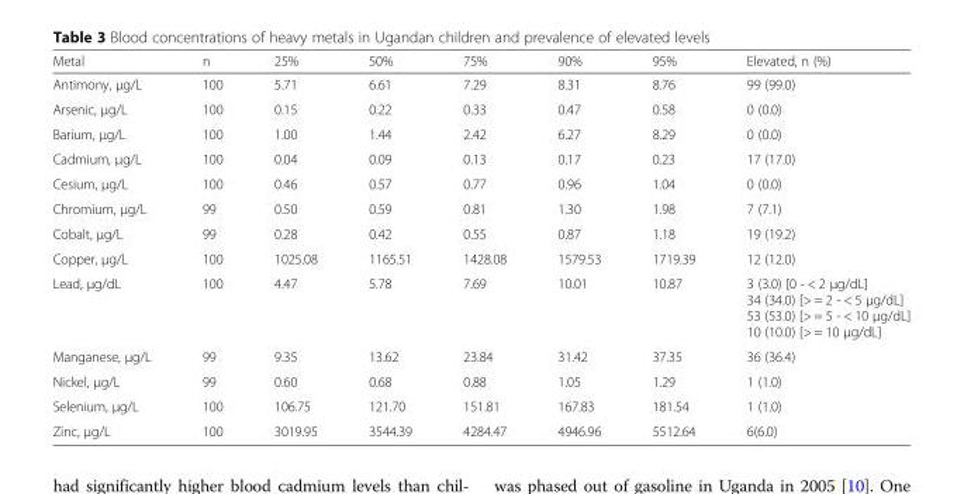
<table><thead><tr><td>Metal</td><td>n</td><td>25%</td><td>50%</td><td>75%</td><td>90%</td><td>95%</td><td>Elevated, n (%)</td></tr></thead><tbody><tr><td>Antimony, μg/L</td><td>100</td><td>5.71</td><td>6.61</td><td>7.29</td><td>8.31</td><td>8.76</td><td>99 (99.0)</td></tr><tr><td>Arsenic, μg/L</td><td>100</td><td>0.15</td><td>0.22</td><td>0.33</td><td>0.47</td><td>0.58</td><td>0 (0.0)</td></tr><tr><td>Barium, μg/L</td><td>100</td><td>1.00</td><td>1.44</td><td>2.42</td><td>6.27</td><td>8.29</td><td>0 (0.0)</td></tr><tr><td>Cadmium, μg/L</td><td>100</td><td>0.04</td><td>0.09</td><td>0.13</td><td>0.17</td><td>0.23</td><td>17 (17.0)</td></tr><tr><td>Cesium, μg/L</td><td>100</td><td>0.46</td><td>0.57</td><td>0.77</td><td>0.96</td><td>1.04</td><td>0 (0.0)</td></tr><tr><td>Chromium, μg/L</td><td>99</td><td>0.50</td><td>0.59</td><td>0.81</td><td>1.30</td><td>1.98</td><td>7 (7.1)</td></tr><tr><td>Cobalt, μg/L</td><td>99</td><td>0.28</td><td>0.42</td><td>0.55</td><td>0.87</td><td>1.18</td><td>19 (19.2)</td></tr><tr><td>Copper, μg/L</td><td>100</td><td>1025.08</td><td>1165.51</td><td>1428.08</td><td>1579.53</td><td>1719.39</td><td>12 (12.0)</td></tr><tr><td>Lead, μg/dL</td><td>100</td><td>4.47</td><td>5.78</td><td>7.69</td><td>10.01</td><td>10.87</td><td>3 (3.0) [0 - &lt; 2 μg/dL] 34 (34.0) [&gt; = 2 - &lt; 5 μg/dL] 53 (53.0) [&gt; = 5 - &lt; 10 μg/dL] 10 (10.0) [&gt; = 10 μg/dL]</td></tr><tr><td>Manganese, μg/L</td><td>99</td><td>9.35</td><td>13.62</td><td>23.84</td><td>31.42</td><td>37.35</td><td>36 (36.4)</td></tr><tr><td>Nickel, μg/L</td><td>99</td><td>0.60</td><td>0.68</td><td>0.88</td><td>1.05</td><td>1.29</td><td>1 (1.0)</td></tr><tr><td>Selenium, μg/L</td><td>100</td><td>106.75</td><td>121.70</td><td>151.81</td><td>167.83</td><td>181.54</td><td>1 (1.0)</td></tr><tr><td>Zinc, μg/L</td><td>100</td><td>3019.95</td><td>3544.39</td><td>4284.47</td><td>4946.96</td><td>5512.64</td><td>6(6.0)</td></tr></tbody></table>